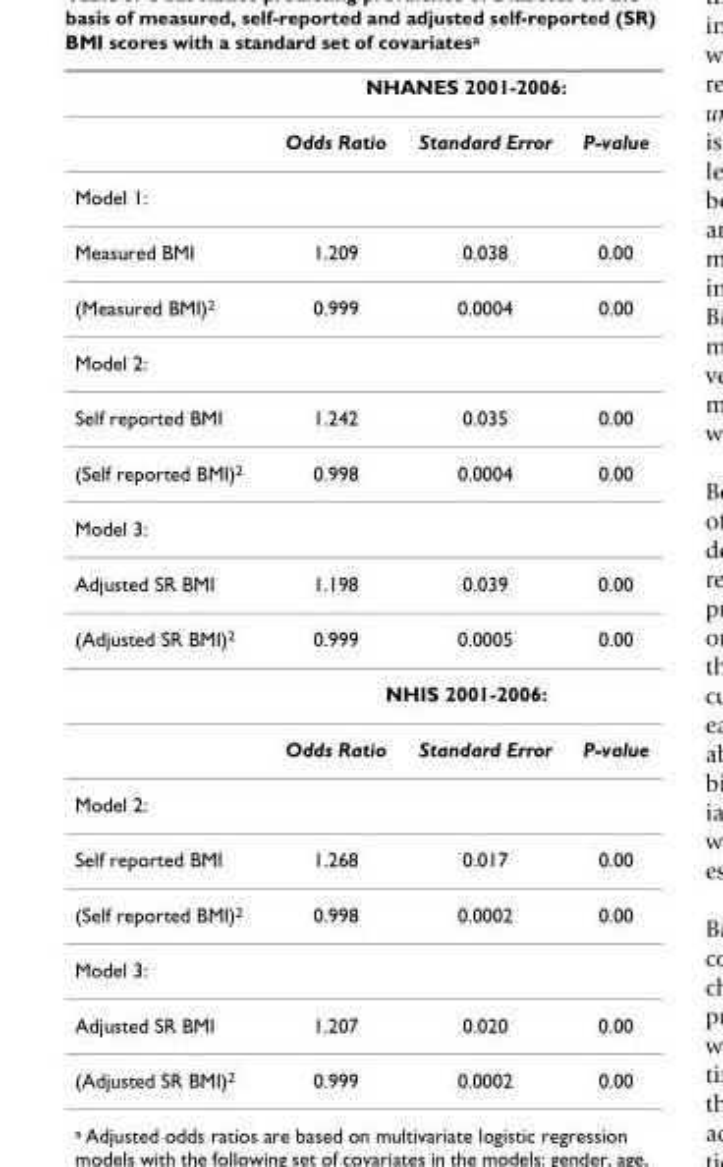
<table><thead><tr><td rowspan="2"></td><td colspan="3">NHANES 2001-2006:</td></tr><tr><td>Odds Ratio</td><td>Standard Error</td><td>P-value</td></tr></thead><tbody><tr><td colspan="4">Model 1:</td></tr><tr><td>Measured BMI</td><td>1.209</td><td>0.038</td><td>0.00</td></tr><tr><td>(Measured BMI)<sup>2</sup></td><td>0.999</td><td>0.0004</td><td>0.00</td></tr><tr><td colspan="4">Model 2:</td></tr><tr><td>Self reported BMI</td><td>1.242</td><td>0.035</td><td>0.00</td></tr><tr><td>(Self reported BMI)<sup>2</sup></td><td>0.998</td><td>0.0004</td><td>0.00</td></tr><tr><td colspan="4">Model 3:</td></tr><tr><td>Adjusted SR BMI</td><td>1.198</td><td>0.039</td><td>0.00</td></tr><tr><td rowspan="3">(Adjusted SR BMI)<sup>2</sup></td><td>0.999</td><td>0.0005</td><td>0.00</td></tr><tr><td colspan="3">NHIS 2001-2006:</td></tr><tr><td>Odds Ratio</td><td>Standard Error</td><td>P-value</td></tr><tr><td colspan="4">Model 2:</td></tr><tr><td>Self reported BMI</td><td>1.268</td><td>0.017</td><td>0.00</td></tr><tr><td>(Self reported BMI)<sup>2</sup></td><td>0.998</td><td>0.0002</td><td>0.00</td></tr><tr><td colspan="4">Model 3:</td></tr><tr><td>Adjusted SR BMI</td><td>1.207</td><td>0.020</td><td>0.00</td></tr><tr><td>(Adjusted SR BMI)<sup>2</sup></td><td>0.999</td><td>0.0002</td><td>0.00</td></tr></tbody></table>